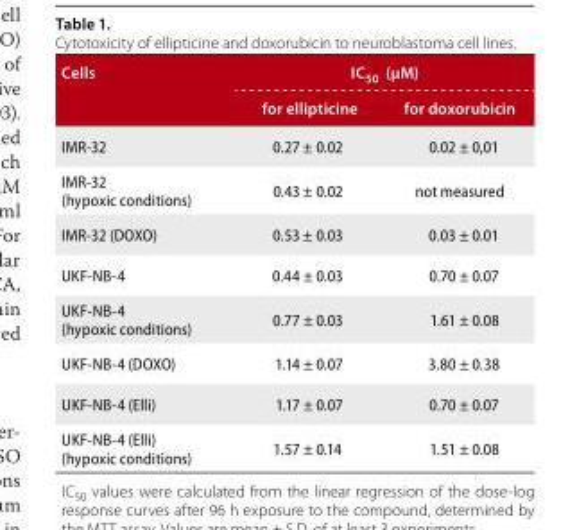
<table><thead><tr><td rowspan="2">cells</td><td colspan="2">ic<sub>50</sub> (µM)</td></tr><tr><td>for ellipticine</td><td>for doxorubicin</td></tr></thead><tbody><tr><td>IMR-32</td><td>0.27 ± 0.02</td><td>0.02 ± 0,01</td></tr><tr><td>IMR-32 (hypoxic conditions)</td><td>0.43 ± 0.02</td><td>not measured</td></tr><tr><td>IMR-32 (DOXO)</td><td>0.53 ± 0.03</td><td>0.03 ± 0.01</td></tr><tr><td>UKF-NB-4</td><td>0.44 ± 0.03</td><td>0.70 ± 0.07</td></tr><tr><td>UKF-NB-4 (hypoxic conditions)</td><td>0.77 ± 0.03</td><td>1.61 ± 0.08</td></tr><tr><td>UKF-NB-4 (DOXO)</td><td>1.14 ± 0.07</td><td>3.80 ± 0.38</td></tr><tr><td>UKF-NB-4 (Elli)</td><td>1.17 ± 0.07</td><td>0.70 ± 0.07</td></tr><tr><td>UKF-NB-4 (Elli) (hypoxic conditions)</td><td>1.57 ± 0.14</td><td>1.51 ± 0.08</td></tr></tbody></table>